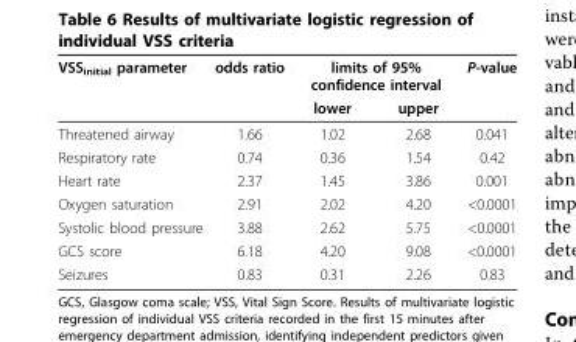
<table><thead><tr><td rowspan="2">VSS<sub>initial</sub> parameter</td><td rowspan="2">odds ratio</td><td colspan="2">limits of 95% confidence interval</td><td rowspan="2">P-value</td></tr><tr><td>lower</td><td>upper</td></tr></thead><tbody><tr><td>Threatened airway</td><td>1.66</td><td>1.02</td><td>2.68</td><td>0.041</td></tr><tr><td>Respiratory rate</td><td>0.74</td><td>0.36</td><td>1.54</td><td>0.42</td></tr><tr><td>Heart rate</td><td>2.37</td><td>1.45</td><td>3.86</td><td>0.001</td></tr><tr><td>Oxygen saturation</td><td>2.91</td><td>2.02</td><td>4.20</td><td>&lt;0.0001</td></tr><tr><td>Systolic blood pressure</td><td>3.88</td><td>2.62</td><td>5.75</td><td>&lt;0.0001</td></tr><tr><td>GCS score</td><td>6.18</td><td>4.20</td><td>9.08</td><td>&lt;0.0001</td></tr><tr><td>Seizures</td><td>0.83</td><td>0.31</td><td>2.26</td><td>0.83</td></tr></tbody></table>